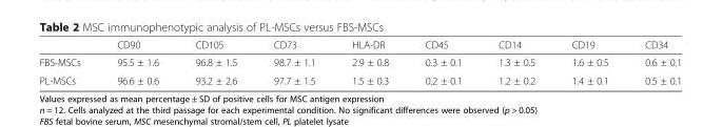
<table><thead><tr><td></td><td>CD90</td><td>CD105</td><td>CD73</td><td>HLA-DR</td><td>CD45</td><td>CD14</td><td>CD19</td><td>CD34</td></tr></thead><tbody><tr><td>FBS-MSCs</td><td>95.5 ± 1.6</td><td>96.8 ± 1.5</td><td>98.7 ± 1.1</td><td>2.9 ± 0.8</td><td>0.3 ± 0.1</td><td>1.3 ± 0.5</td><td>1.6 ± 0.5</td><td>0.6 ± 0.1</td></tr><tr><td>PL-MSCs</td><td>96.6 ± 0.6</td><td>93.2 ± 2.6</td><td>97.7 ± 1.5</td><td>1.5 ± 0.3</td><td>0.2 ± 0.1</td><td>1.2 ± 0.2</td><td>1.4 ± 0.1</td><td>0.5 ± 0.1</td></tr></tbody></table>